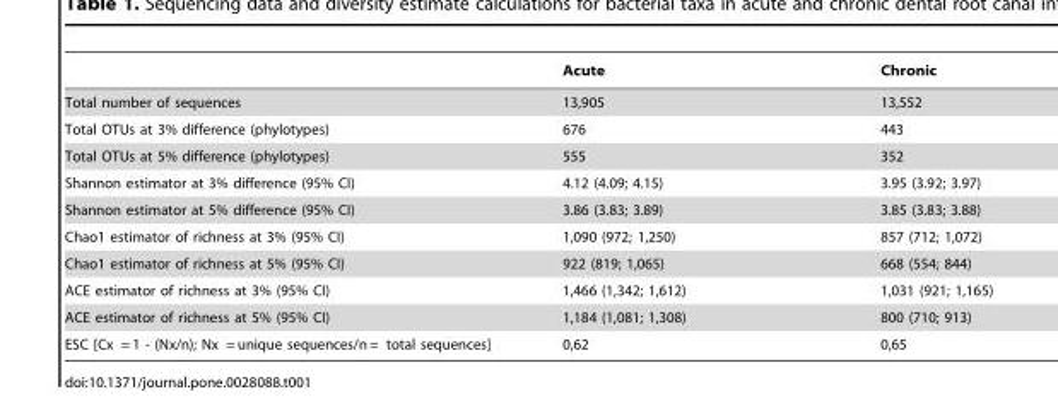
<table><thead><tr><td></td><td>Acute</td><td>Chronic</td></tr></thead><tbody><tr><td>Total number of sequences</td><td>13,905</td><td>13,552</td></tr><tr><td>Total OTUs at 3% difference (phylotypes)</td><td>676</td><td>443</td></tr><tr><td>Total OTUs at 5% difference (phylotypes)</td><td>555</td><td>352</td></tr><tr><td>Shannon estimator at 3% difference (95% CI)</td><td>4.12 (4.09; 4.15)</td><td>3.95 (3.92; 3.97)</td></tr><tr><td>Shannon estimator at 5% difference (95% CI)</td><td>3.86 (3.83; 3.89)</td><td>3.85 (3.83; 3.88)</td></tr><tr><td>Chao1 estimator of richness at 3% (95% CI)</td><td>1,090 (972; 1,250)</td><td>857 (712; 1,072)</td></tr><tr><td>Chao1 estimator of richness at 5% (95% CI)</td><td>922 (819; 1,065)</td><td>668 (554; 844)</td></tr><tr><td>ACE estimator of richness at 3% (95% CI)</td><td>1,466 (1,342; 1,612)</td><td>1,031 (921; 1,165)</td></tr><tr><td>ACE estimator of richness at 5% (95% CI)</td><td>1,184 (1,081; 1,308)</td><td>800 (710; 913)</td></tr><tr><td>ESC [Cx = 1 - (Nx/n); Nx = unique sequences/n = total sequences]</td><td>0,62</td><td>0,65</td></tr></tbody></table>